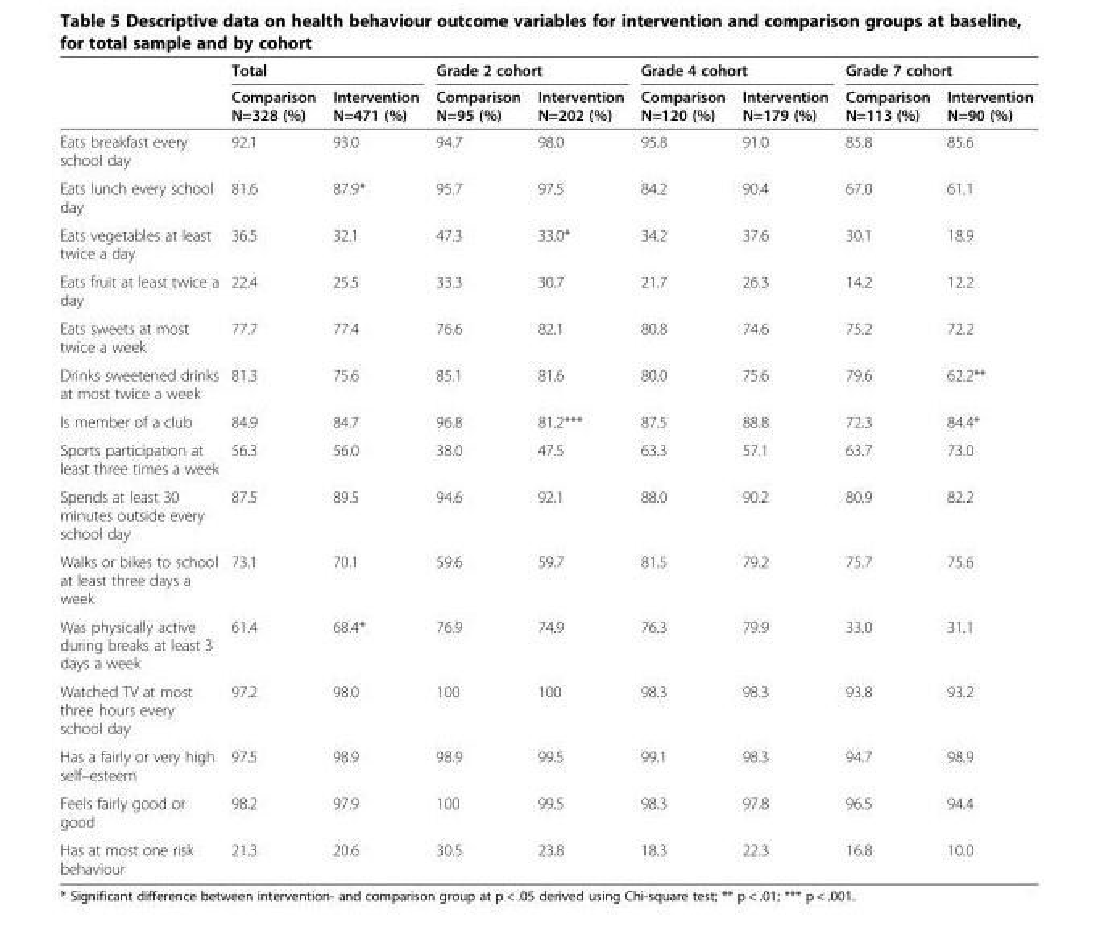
<table><thead><tr><td rowspan="2"></td><td colspan="2">Total</td><td colspan="2">Grade 2 cohort</td><td colspan="2">Grade 4 cohort</td><td colspan="2">Grade 7 cohort</td></tr><tr><td>Comparison N=328 (%)</td><td>Intervention N=471 (%)</td><td>Comparison N=95 (%)</td><td>Intervention N=202 (%)</td><td>Comparison N=120 (%)</td><td>Intervention N=179 (%)</td><td>Comparison N=113 (%)</td><td>Intervention N=90 (%)</td></tr></thead><tbody><tr><td>Eats breakfast every school day</td><td>92.1</td><td>93.0</td><td>94.7</td><td>98.0</td><td>95.8</td><td>91.0</td><td>85.8</td><td>85.6</td></tr><tr><td>Eats lunch every school day</td><td>81.6</td><td>87.9*</td><td>95.7</td><td>97.5</td><td>84.2</td><td>90.4</td><td>67.0</td><td>61.1</td></tr><tr><td>Eats vegetables at least twice a day</td><td>36.5</td><td>32.1</td><td>47.3</td><td>33.0*</td><td>34.2</td><td>37.6</td><td>30.1</td><td>18.9</td></tr><tr><td>Eats fruit at least twice a day</td><td>22.4</td><td>25.5</td><td>33.3</td><td>30.7</td><td>21.7</td><td>26.3</td><td>14.2</td><td>12.2</td></tr><tr><td>Eats sweets at most twice a week</td><td>77.7</td><td>77.4</td><td>76.6</td><td>82.1</td><td>80.8</td><td>74.6</td><td>75.2</td><td>72.2</td></tr><tr><td>Drinks sweetened drinks at most twice a week</td><td>81.3</td><td>75.6</td><td>85.1</td><td>81.6</td><td>80.0</td><td>75.6</td><td>79.6</td><td>62.2**</td></tr><tr><td>Is member of a club</td><td>84.9</td><td>84.7</td><td>96.8</td><td>81.2***</td><td>87.5</td><td>88.8</td><td>72.3</td><td>84.4*</td></tr><tr><td>Sports participation at least three times a week</td><td>56.3</td><td>56.0</td><td>38.0</td><td>47.5</td><td>63.3</td><td>57.1</td><td>63.7</td><td>73.0</td></tr><tr><td>Spends at least 30 minutes outside every school day</td><td>87.5</td><td>89.5</td><td>94.6</td><td>92.1</td><td>88.0</td><td>90.2</td><td>80.9</td><td>82.2</td></tr><tr><td>Walks or bikes to school at least three days a week</td><td>73.1</td><td>70.1</td><td>59.6</td><td>59.7</td><td>81.5</td><td>79.2</td><td>75.7</td><td>75.6</td></tr><tr><td>Was physically active during breaks at least 3 days a week</td><td>61.4</td><td>68.4*</td><td>76.9</td><td>74.9</td><td>76.3</td><td>79.9</td><td>33.0</td><td>31.1</td></tr><tr><td>Watched TV at most three hours every school day</td><td>97.2</td><td>98.0</td><td>100</td><td>100</td><td>98.3</td><td>98.3</td><td>93.8</td><td>93.2</td></tr><tr><td>Has a fairly or very high self–esteem</td><td>97.5</td><td>98.9</td><td>98.9</td><td>99.5</td><td>99.1</td><td>98.3</td><td>94.7</td><td>98.9</td></tr><tr><td>Feels fairly good or good</td><td>98.2</td><td>97.9</td><td>100</td><td>99.5</td><td>98.3</td><td>97.8</td><td>96.5</td><td>94.4</td></tr><tr><td>Has at most one risk behaviour</td><td>21.3</td><td>20.6</td><td>30.5</td><td>23.8</td><td>18.3</td><td>22.3</td><td>16.8</td><td>10.0</td></tr></tbody></table>